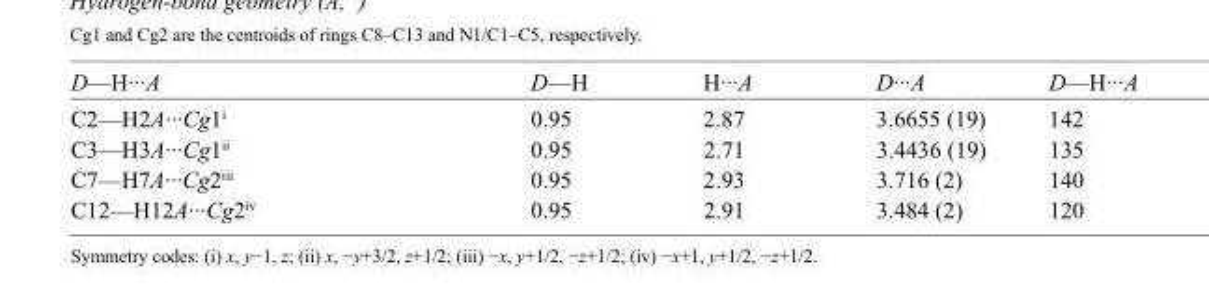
<table><tbody><tr><td>D—H···A</td><td>D—H</td><td>H···A</td><td>D···A</td><td>D—H···A</td></tr><tr><td>C2—H2A···Cg1<sup>i</sup></td><td>0.95</td><td>2.87</td><td>3.6655 (19)</td><td>142</td></tr><tr><td>C3—H3A···Cg1<sup>ii</sup></td><td>0.95</td><td>2.71</td><td>3.4436 (19)</td><td>135</td></tr><tr><td>C7—H7A···Cg2<sup>iii</sup></td><td>0.95</td><td>2.93</td><td>3.716 (2)</td><td>140</td></tr><tr><td>C12—H12A···Cg2<sup>iv</sup></td><td>0.95</td><td>2.91</td><td>3.484 (2)</td><td>120</td></tr></tbody></table>